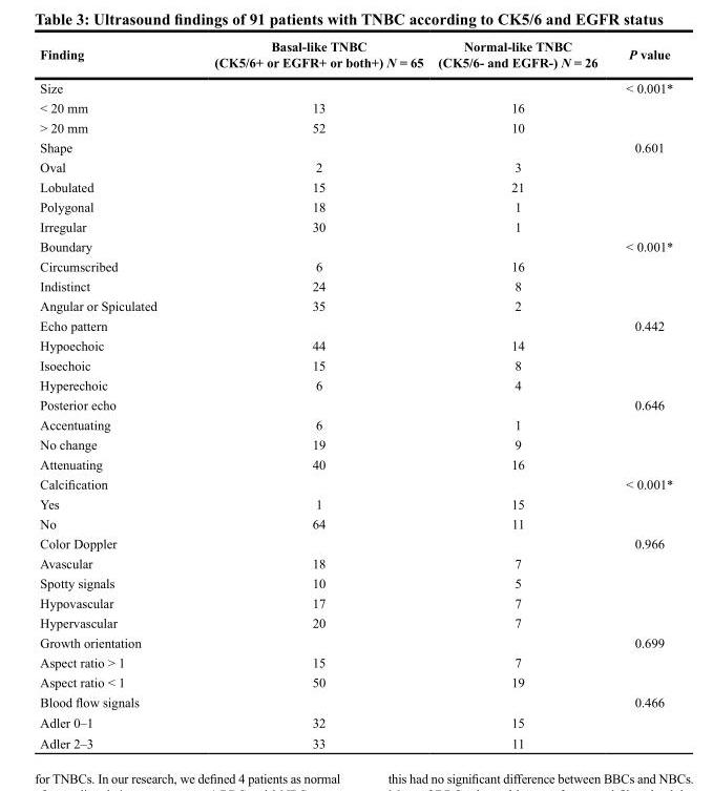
<table><thead><tr><td>Finding</td><td>Basal-like TNBC (CK5/6+ or EGFR+ or both+) N = 65</td><td>Normal-like TNBC (CK5/6- and EGFR-) N = 26</td><td>P value</td></tr></thead><tbody><tr><td>Size</td><td></td><td></td><td>&lt; 0.001*</td></tr><tr><td>&lt; 20 mm</td><td>13</td><td>16</td><td></td></tr><tr><td>&gt; 20 mm</td><td>52</td><td>10</td><td></td></tr><tr><td>Shape</td><td></td><td></td><td>0.601</td></tr><tr><td>Oval</td><td>2</td><td>3</td><td></td></tr><tr><td>Lobulated</td><td>15</td><td>21</td><td></td></tr><tr><td>Polygonal</td><td>18</td><td>1</td><td></td></tr><tr><td>Irregular</td><td>30</td><td>1</td><td></td></tr><tr><td>Boundary</td><td></td><td></td><td>&lt; 0.001*</td></tr><tr><td>Circumscribed</td><td>6</td><td>16</td><td></td></tr><tr><td>Indistinct</td><td>24</td><td>8</td><td></td></tr><tr><td>Angular or Spiculated</td><td>35</td><td>2</td><td></td></tr><tr><td>Echo pattern</td><td></td><td></td><td>0.442</td></tr><tr><td>Hypoechoic</td><td>44</td><td>14</td><td></td></tr><tr><td>Isoechoic</td><td>15</td><td>8</td><td></td></tr><tr><td>Hyperechoic</td><td>6</td><td>4</td><td></td></tr><tr><td>Posterior echo</td><td></td><td></td><td>0.646</td></tr><tr><td>Accentuating</td><td>6</td><td>1</td><td></td></tr><tr><td>No change</td><td>19</td><td>9</td><td></td></tr><tr><td>Attenuating</td><td>40</td><td>16</td><td></td></tr><tr><td>Calcification</td><td></td><td></td><td>&lt; 0.001*</td></tr><tr><td>Yes</td><td>1</td><td>15</td><td></td></tr><tr><td>No</td><td>64</td><td>11</td><td></td></tr><tr><td>Color Doppler</td><td></td><td></td><td>0.966</td></tr><tr><td>Avascular</td><td>18</td><td>7</td><td></td></tr><tr><td>Spotty signals</td><td>10</td><td>5</td><td></td></tr><tr><td>Hypovascular</td><td>17</td><td>7</td><td></td></tr><tr><td>Hypervascular</td><td>20</td><td>7</td><td></td></tr><tr><td>Growth orientation</td><td></td><td></td><td>0.699</td></tr><tr><td>Aspect ratio &gt; 1</td><td>15</td><td>7</td><td></td></tr><tr><td>Aspect ratio &lt; 1</td><td>50</td><td>19</td><td></td></tr><tr><td>Blood flow signals</td><td></td><td></td><td>0.466</td></tr><tr><td>Adler 0–1</td><td>32</td><td>15</td><td></td></tr><tr><td>Adler 2–3</td><td>33</td><td>11</td><td></td></tr></tbody></table>